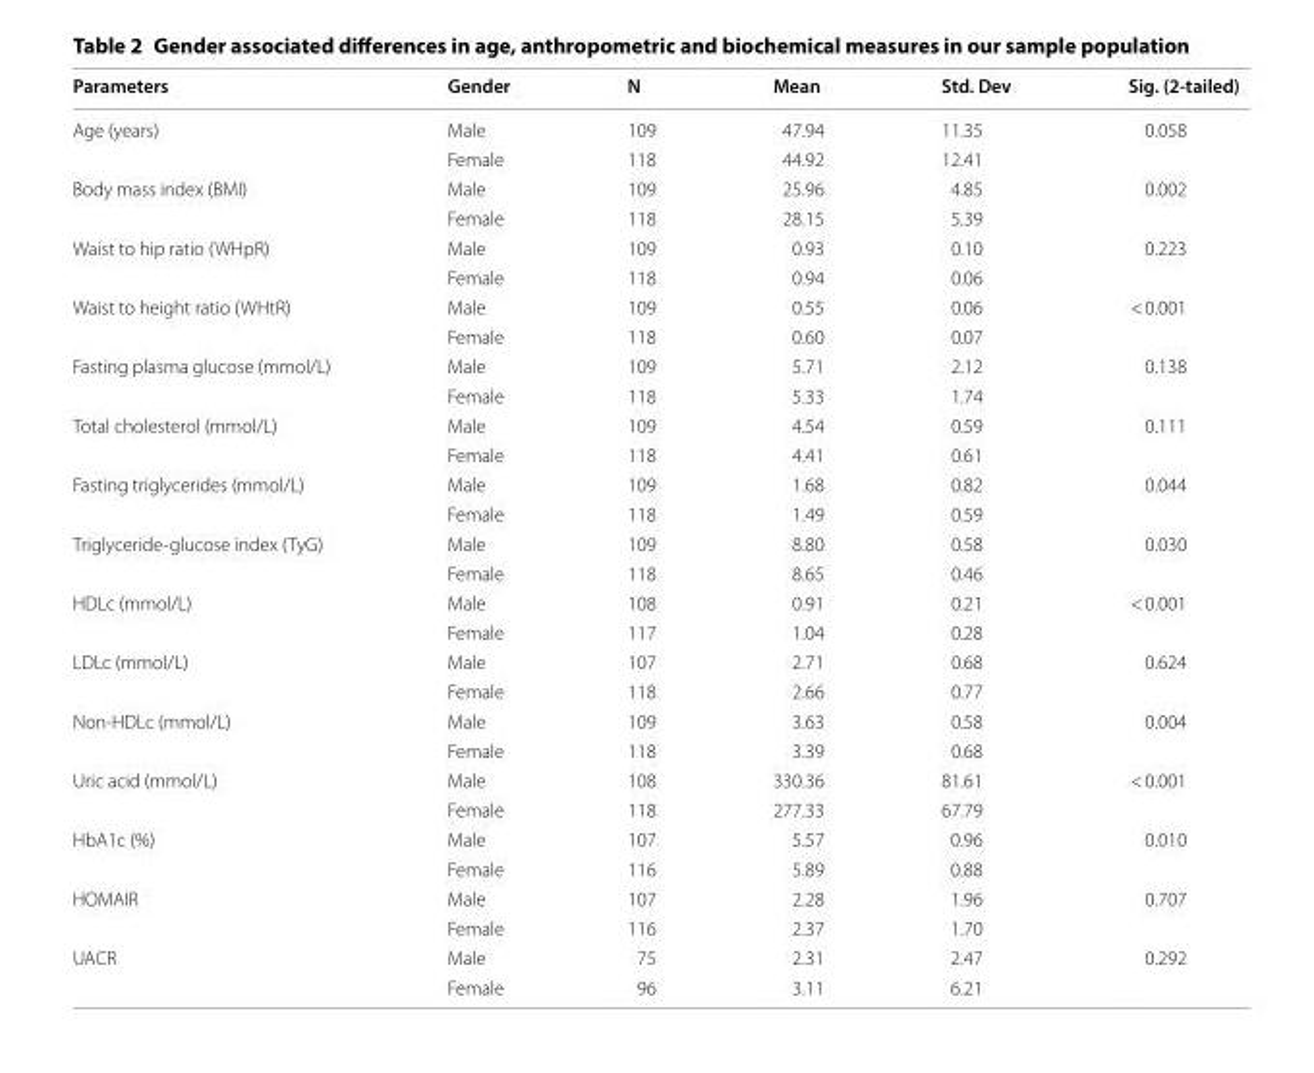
<table><thead><tr><td>Parameters</td><td>Gender</td><td>N</td><td>Mean</td><td>Std. Dev</td><td>Sig. (2‑tailed)</td></tr></thead><tbody><tr><td rowspan="2">Age (years)</td><td>Male</td><td>109</td><td>47.94</td><td>11.35</td><td rowspan="2">0.058</td></tr><tr><td>Female</td><td>118</td><td>44.92</td><td>12.41</td></tr><tr><td rowspan="2">Body mass index (BMI)</td><td>Male</td><td>109</td><td>25.96</td><td>4.85</td><td rowspan="2">0.002</td></tr><tr><td>Female</td><td>118</td><td>28.15</td><td>5.39</td></tr><tr><td rowspan="2">Waist to hip ratio (WHpR)</td><td>Male</td><td>109</td><td>0.93</td><td>0.10</td><td rowspan="2">0.223</td></tr><tr><td>Female</td><td>118</td><td>0.94</td><td>0.06</td></tr><tr><td rowspan="2">Waist to height ratio (WHtR)</td><td>Male</td><td>109</td><td>0.55</td><td>0.06</td><td rowspan="2">&lt; 0.001</td></tr><tr><td>Female</td><td>118</td><td>0.60</td><td>0.07</td></tr><tr><td rowspan="2">Fasting plasma glucose (mmol/L)</td><td>Male</td><td>109</td><td>5.71</td><td>2.12</td><td rowspan="2">0.138</td></tr><tr><td>Female</td><td>118</td><td>5.33</td><td>1.74</td></tr><tr><td rowspan="2">Total cholesterol (mmol/L)</td><td>Male</td><td>109</td><td>4.54</td><td>0.59</td><td rowspan="2">0.111</td></tr><tr><td>Female</td><td>118</td><td>4.41</td><td>0.61</td></tr><tr><td rowspan="2">Fasting triglycerides (mmol/L)</td><td>Male</td><td>109</td><td>1.68</td><td>0.82</td><td rowspan="2">0.044</td></tr><tr><td>Female</td><td>118</td><td>1.49</td><td>0.59</td></tr><tr><td rowspan="2">Triglyceride-glucose index (TyG)</td><td>Male</td><td>109</td><td>8.80</td><td>0.58</td><td rowspan="2">0.030</td></tr><tr><td>Female</td><td>118</td><td>8.65</td><td>0.46</td></tr><tr><td rowspan="2">HDLc (mmol/L)</td><td>Male</td><td>108</td><td>0.91</td><td>0.21</td><td rowspan="2">&lt; 0.001</td></tr><tr><td>Female</td><td>117</td><td>1.04</td><td>0.28</td></tr><tr><td rowspan="2">LDLc (mmol/L)</td><td>Male</td><td>107</td><td>2.71</td><td>0.68</td><td rowspan="2">0.624</td></tr><tr><td>Female</td><td>118</td><td>2.66</td><td>0.77</td></tr><tr><td rowspan="2">Non-HDLc (mmol/L)</td><td>Male</td><td>109</td><td>3.63</td><td>0.58</td><td rowspan="2">0.004</td></tr><tr><td>Female</td><td>118</td><td>3.39</td><td>0.68</td></tr><tr><td rowspan="2">Uric acid (mmol/L)</td><td>Male</td><td>108</td><td>330.36</td><td>81.61</td><td rowspan="2">&lt; 0.001</td></tr><tr><td>Female</td><td>118</td><td>277.33</td><td>67.79</td></tr><tr><td rowspan="2">HbA1c (%)</td><td>Male</td><td>107</td><td>5.57</td><td>0.96</td><td rowspan="2">0.010</td></tr><tr><td>Female</td><td>116</td><td>5.89</td><td>0.88</td></tr><tr><td rowspan="2">HOMAIR</td><td>Male</td><td>107</td><td>2.28</td><td>1.96</td><td rowspan="2">0.707</td></tr><tr><td>Female</td><td>116</td><td>2.37</td><td>1.70</td></tr><tr><td rowspan="2">UACR</td><td>Male</td><td>75</td><td>2.31</td><td>2.47</td><td rowspan="2">0.292</td></tr><tr><td>Female</td><td>96</td><td>3.11</td><td>6.21</td></tr></tbody></table>